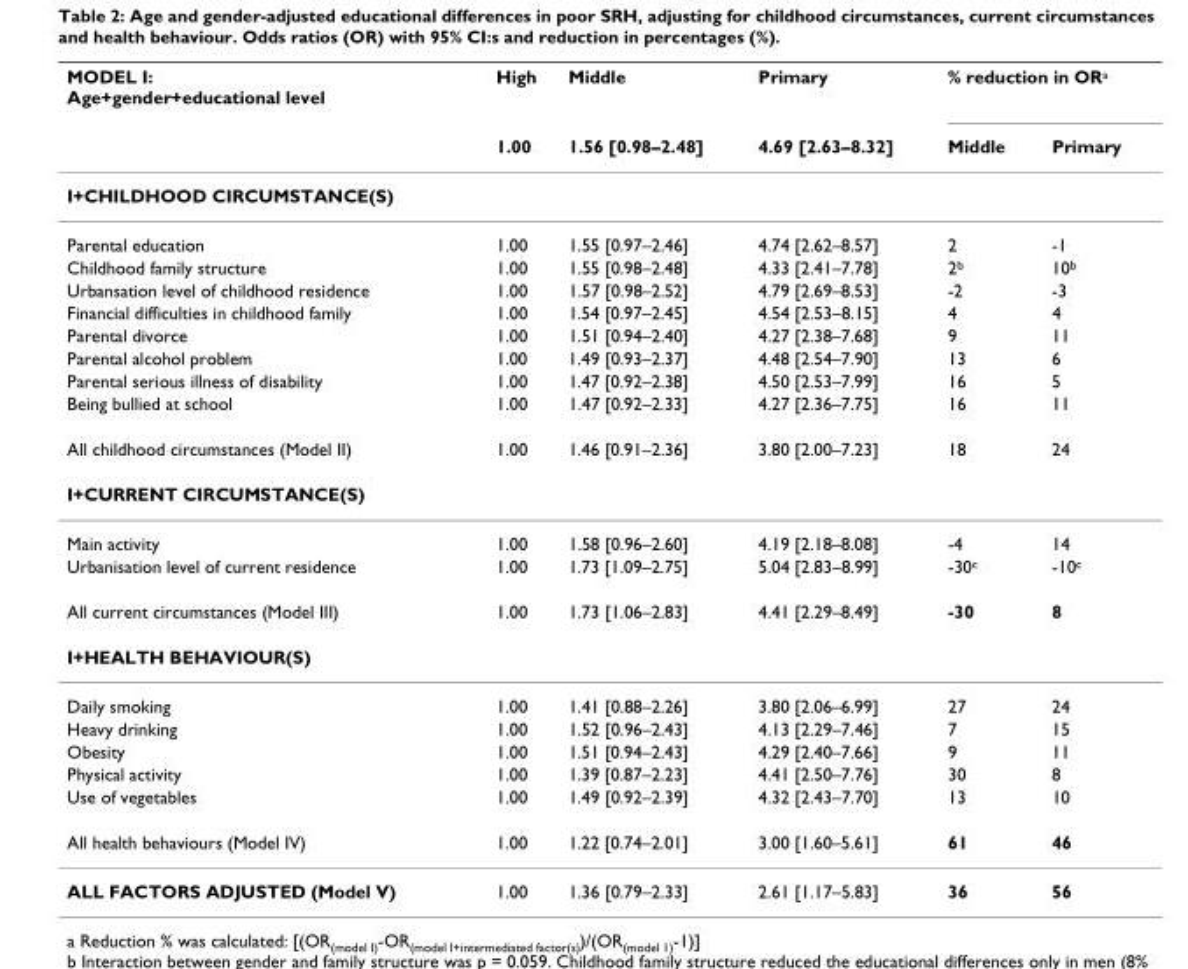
<table><thead><tr><td rowspan="2">MODEL I: Age+gender+educational level</td><td rowspan="2">High 1.00</td><td rowspan="2">Middle 1.56 [0.98–2.48]</td><td rowspan="2">Primary 4.69 [2.63–8.32]</td><td colspan="2">% reduction in ORa</td></tr><tr><td>Middle</td><td>Primary</td></tr></thead><tbody><tr><td colspan="6">I+CHILDHOOD CIRCUMSTANCE(S)</td></tr><tr><td>Parental education</td><td>1.00</td><td>1.55 [0.97–2.46]</td><td>4.74 [2.62–8.57]</td><td>2</td><td>-1</td></tr><tr><td>Childhood family structure</td><td>1.00</td><td>1.55 [0.98–2.48]</td><td>4.33 [2.41–7.78]</td><td>2<sup>b</sup></td><td>10<sup>b</sup></td></tr><tr><td>Urbansation level of childhood residence</td><td>1.00</td><td>1.57 [0.98–2.52]</td><td>4.79 [2.69–8.53]</td><td>-2</td><td>-3</td></tr><tr><td>Financial difficulties in childhood family</td><td>1.00</td><td>1.54 [0.97–2.45]</td><td>4.54 [2.53–8.15]</td><td>4</td><td>4</td></tr><tr><td>Parental divorce</td><td>1.00</td><td>1.51 [0.94–2.40]</td><td>4.27 [2.38–7.68]</td><td>9</td><td>11</td></tr><tr><td>Parental alcohol problem</td><td>1.00</td><td>1.49 [0.93–2.37]</td><td>4.48 [2.54–7.90]</td><td>13</td><td>6</td></tr><tr><td>Parental serious illness of disability</td><td>1.00</td><td>1.47 [0.92–2.38]</td><td>4.50 [2.53–7.99]</td><td>16</td><td>5</td></tr><tr><td>Being bullied at school</td><td>1.00</td><td>1.47 [0.92–2.33]</td><td>4.27 [2.36–7.75]</td><td>16</td><td>11</td></tr><tr><td>All childhood circumstances (Model II)</td><td>1.00</td><td>1.46 [0.91–2.36]</td><td>3.80 [2.00–7.23]</td><td>18</td><td>24</td></tr><tr><td colspan="6">I+CURRENT CIRCUMSTANCE(S)</td></tr><tr><td>Main activity</td><td>1.00</td><td>1.58 [0.96–2.60]</td><td>4.19 [2.18–8.08]</td><td>-4</td><td>14</td></tr><tr><td>Urbanisation level of current residence</td><td>1.00</td><td>1.73 [1.09–2.75]</td><td>5.04 [2.83–8.99]</td><td>-30<sup>c</sup></td><td>-10<sup>c</sup></td></tr><tr><td>All current circumstances (Model III)</td><td>1.00</td><td>1.73 [1.06–2.83]</td><td>4.41 [2.29–8.49]</td><td>-30</td><td>8</td></tr><tr><td colspan="6">I+HEALTH BEHAVIOUR(S)</td></tr><tr><td>Daily smoking</td><td>1.00</td><td>1.41 [0.88–2.26]</td><td>3.80 [2.06–6.99]</td><td>27</td><td>24</td></tr><tr><td>Heavy drinking</td><td>1.00</td><td>1.52 [0.96–2.43]</td><td>4.13 [2.29–7.46]</td><td>7</td><td>15</td></tr><tr><td>Obesity</td><td>1.00</td><td>1.51 [0.94–2.43]</td><td>4.29 [2.40–7.66]</td><td>9</td><td>11</td></tr><tr><td>Physical activity</td><td>1.00</td><td>1.39 [0.87–2.23]</td><td>4.41 [2.50–7.76]</td><td>30</td><td>8</td></tr><tr><td>Use of vegetables</td><td>1.00</td><td>1.49 [0.92–2.39]</td><td>4.32 [2.43–7.70]</td><td>13</td><td>10</td></tr><tr><td>All health behaviours (Model IV)</td><td>1.00</td><td>1.22 [0.74–2.01]</td><td>3.00 [1.60–5.61]</td><td>61</td><td>46</td></tr><tr><td>ALL FACTORS ADJUSTED (Model V)</td><td>1.00</td><td>1.36 [0.79–2.33]</td><td>2.61 [1.17–5.83]</td><td>36</td><td>56</td></tr></tbody></table>